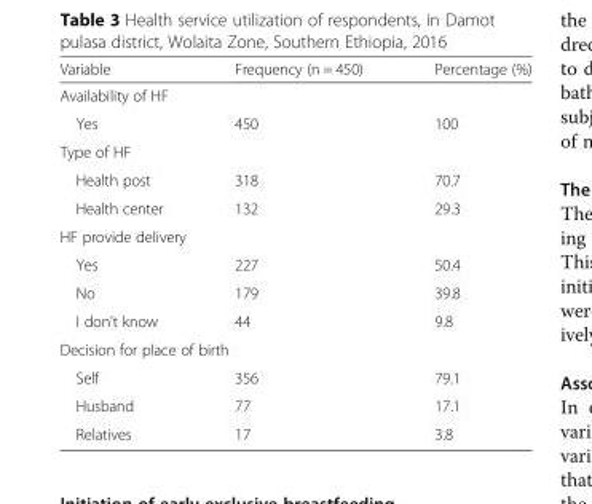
<table><thead><tr><td>Variable</td><td>Frequency (n = 450)</td><td>Percentage (%)</td></tr></thead><tbody><tr><td colspan="3">Availability of HF</td></tr><tr><td>Yes</td><td>450</td><td>100</td></tr><tr><td colspan="3">Type of HF</td></tr><tr><td>Health post</td><td>318</td><td>70.7</td></tr><tr><td>Health center</td><td>132</td><td>29.3</td></tr><tr><td colspan="3">HF provide delivery</td></tr><tr><td>Yes</td><td>227</td><td>50.4</td></tr><tr><td>No</td><td>179</td><td>39.8</td></tr><tr><td>I don’t know</td><td>44</td><td>9.8</td></tr><tr><td colspan="3">Decision for place of birth</td></tr><tr><td>Self</td><td>356</td><td>79.1</td></tr><tr><td>Husband</td><td>77</td><td>17.1</td></tr><tr><td>Relatives</td><td>17</td><td>3.8</td></tr></tbody></table>